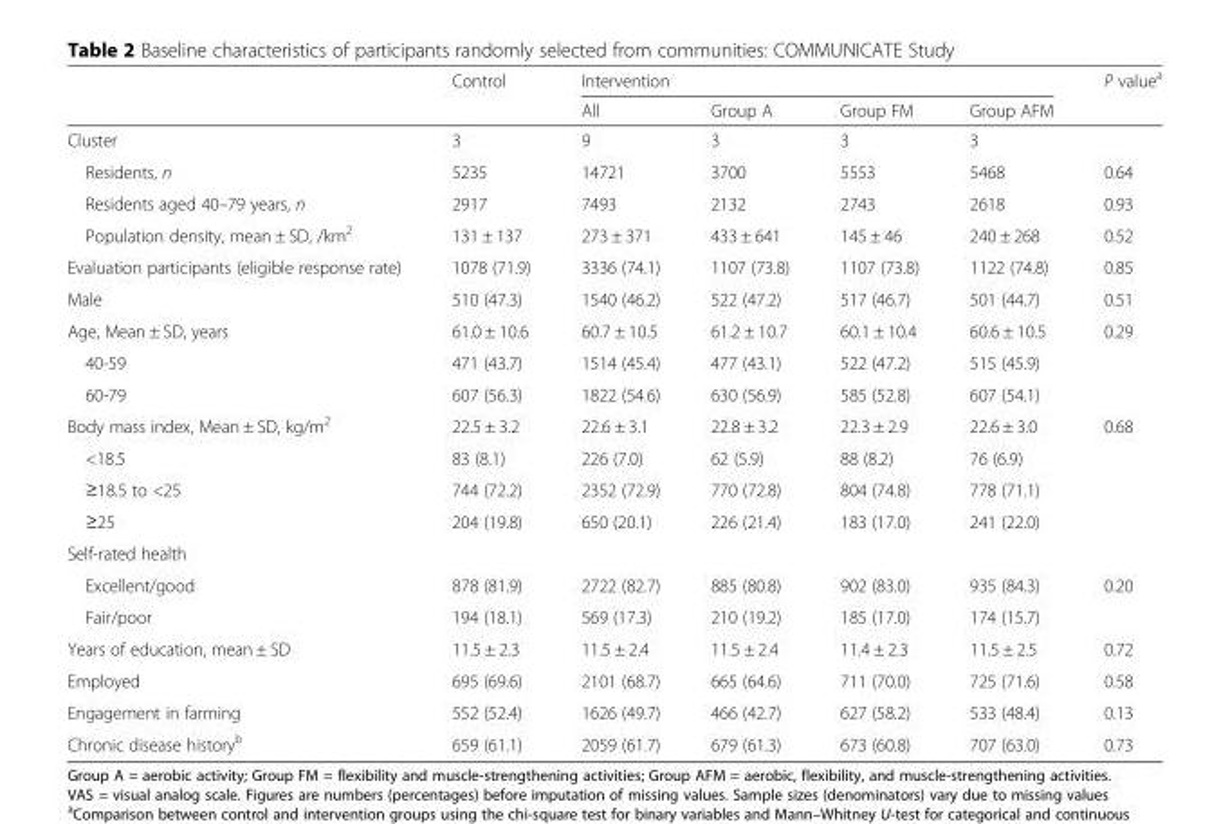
<table><thead><tr><td rowspan="2"></td><td rowspan="2">Control</td><td colspan="4">Intervention</td><td rowspan="2">P value<sup>a</sup></td></tr><tr><td>All</td><td>Group A</td><td>Group FM</td><td>Group AFM</td></tr></thead><tbody><tr><td>Cluster</td><td>3</td><td>9</td><td>3</td><td>3</td><td>3</td><td></td></tr><tr><td>Residents, n</td><td>5235</td><td>14721</td><td>3700</td><td>5553</td><td>5468</td><td>0.64</td></tr><tr><td>Residents aged 40–79 years, n</td><td>2917</td><td>7493</td><td>2132</td><td>2743</td><td>2618</td><td>0.93</td></tr><tr><td>Population density, mean ± SD, /km<sup>2</sup></td><td>131 ± 137</td><td>273 ± 371</td><td>433 ± 641</td><td>145 ± 46</td><td>240 ± 268</td><td>0.52</td></tr><tr><td>Evaluation participants (eligible response rate)</td><td>1078 (71.9)</td><td>3336 (74.1)</td><td>1107 (73.8)</td><td>1107 (73.8)</td><td>1122 (74.8)</td><td>0.85</td></tr><tr><td>Male</td><td>510 (47.3)</td><td>1540 (46.2)</td><td>522 (47.2)</td><td>517 (46.7)</td><td>501 (44.7)</td><td>0.51</td></tr><tr><td>Age, Mean ± SD, years</td><td>61.0 ± 10.6</td><td>60.7 ± 10.5</td><td>61.2 ± 10.7</td><td>60.1 ± 10.4</td><td>60.6 ± 10.5</td><td>0.29</td></tr><tr><td>40-59</td><td>471 (43.7)</td><td>1514 (45.4)</td><td>477 (43.1)</td><td>522 (47.2)</td><td>515 (45.9)</td><td></td></tr><tr><td>60-79</td><td>607 (56.3)</td><td>1822 (54.6)</td><td>630 (56.9)</td><td>585 (52.8)</td><td>607 (54.1)</td><td></td></tr><tr><td>Body mass index, Mean ± SD, kg/m<sup>2</sup></td><td>22.5 ± 3.2</td><td>22.6 ± 3.1</td><td>22.8 ± 3.2</td><td>22.3 ± 2.9</td><td>22.6 ± 3.0</td><td>0.68</td></tr><tr><td>&lt;18.5</td><td>83 (8.1)</td><td>226 (7.0)</td><td>62 (5.9)</td><td>88 (8.2)</td><td>76 (6.9)</td><td></td></tr><tr><td>≥18.5 to &lt;25</td><td>744 (72.2)</td><td>2352 (72.9)</td><td>770 (72.8)</td><td>804 (74.8)</td><td>778 (71.1)</td><td></td></tr><tr><td>≥25</td><td>204 (19.8)</td><td>650 (20.1)</td><td>226 (21.4)</td><td>183 (17.0)</td><td>241 (22.0)</td><td></td></tr><tr><td colspan="7">Self-rated health</td></tr><tr><td>Excellent/good</td><td>878 (81.9)</td><td>2722 (82.7)</td><td>885 (80.8)</td><td>902 (83.0)</td><td>935 (84.3)</td><td>0.20</td></tr><tr><td>Fair/poor</td><td>194 (18.1)</td><td>569 (17.3)</td><td>210 (19.2)</td><td>185 (17.0)</td><td>174 (15.7)</td><td></td></tr><tr><td>Years of education, mean ± SD</td><td>11.5 ± 2.3</td><td>11.5 ± 2.4</td><td>11.5 ± 2.4</td><td>11.4 ± 2.3</td><td>11.5 ± 2.5</td><td>0.72</td></tr><tr><td>Employed</td><td>695 (69.6)</td><td>2101 (68.7)</td><td>665 (64.6)</td><td>711 (70.0)</td><td>725 (71.6)</td><td>0.58</td></tr><tr><td>Engagement in farming</td><td>552 (52.4)</td><td>1626 (49.7)</td><td>466 (42.7)</td><td>627 (58.2)</td><td>533 (48.4)</td><td>0.13</td></tr><tr><td>Chronic disease history<sup>b</sup></td><td>659 (61.1)</td><td>2059 (61.7)</td><td>679 (61.3)</td><td>673 (60.8)</td><td>707 (63.0)</td><td>0.73</td></tr></tbody></table>